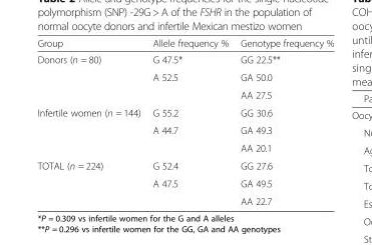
<table><thead><tr><td>Group</td><td>Allele frequency %</td><td>Genotype frequency %</td></tr></thead><tbody><tr><td rowspan="3">Donors (n = 80)</td><td>G 47.5*</td><td>GG 22.5**</td></tr><tr><td>A 52.5</td><td>GA 50.0</td></tr><tr><td></td><td>AA 27.5</td></tr><tr><td rowspan="3">Infertile women (n = 144)</td><td>G 55.2</td><td>GG 30.6</td></tr><tr><td>A 44.7</td><td>GA 49.3</td></tr><tr><td></td><td>AA 20.1</td></tr><tr><td rowspan="3">TOTAL (n = 224)</td><td>G 52.4</td><td>GG 27.6</td></tr><tr><td>A 47.5</td><td>GA 49.5</td></tr><tr><td></td><td>AA 22.7</td></tr></tbody></table>